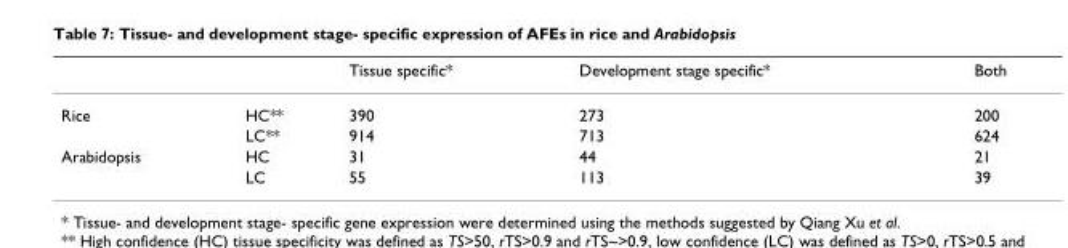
<table><thead><tr><td></td><td></td><td>Tissue specific*</td><td>Development stage specific*</td><td>Both</td></tr></thead><tbody><tr><td rowspan="2">Rice</td><td>HC**</td><td>390</td><td>273</td><td>200</td></tr><tr><td>LC**</td><td>914</td><td>713</td><td>624</td></tr><tr><td rowspan="2">Arabidopsis</td><td>HC</td><td>31</td><td>44</td><td>21</td></tr><tr><td>LC</td><td>55</td><td>113</td><td>39</td></tr></tbody></table>